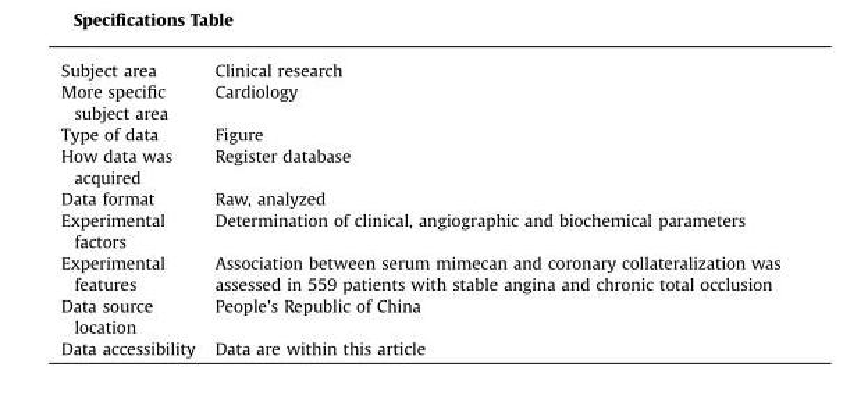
<table><tbody><tr><td>Subject area</td><td>Clinical research</td></tr><tr><td>More specific subject area</td><td>Cardiology</td></tr><tr><td>Type of data</td><td>Figure</td></tr><tr><td>How data was acquired</td><td>Register database</td></tr><tr><td>Data format</td><td>Raw, analyzed</td></tr><tr><td>Experimental factors</td><td>Determination of clinical, angiographic and biochemical parameters</td></tr><tr><td>Experimental features</td><td>Association between serum mimecan and coronary collateralization was assessed in 559 patients with stable angina and chronic total occlusion</td></tr><tr><td>Data source location</td><td>People&#x27;s Republic of China</td></tr><tr><td>Data accessibility</td><td>Data are within this article</td></tr></tbody></table>